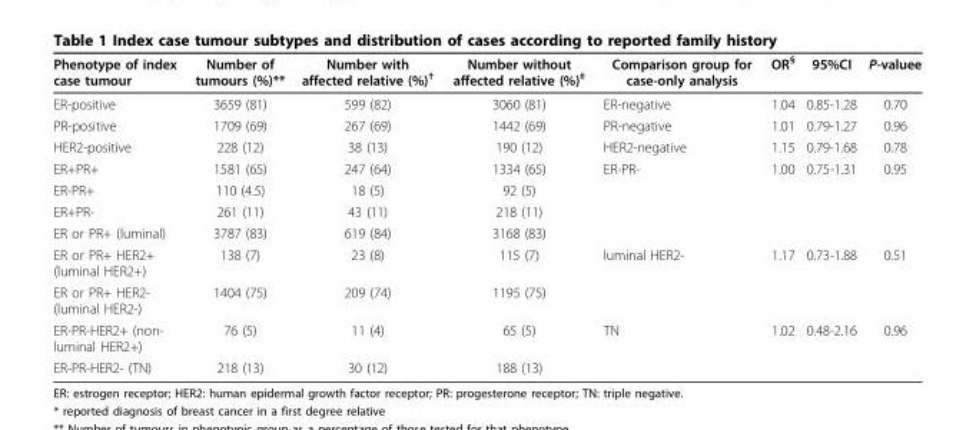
<table><thead><tr><td>Phenotype of index case tumour</td><td>Number of tumours (%)**</td><td>Number with affected relative (%)<sup>†</sup></td><td>Number without affected relative (%)<sup>‡</sup></td><td>Comparison group for case-only analysis</td><td>OR<sup>§</sup></td><td>95%CI</td><td>P-valuee</td></tr></thead><tbody><tr><td>ER-positive</td><td>3659 (81)</td><td>599 (82)</td><td>3060 (81)</td><td>ER-negative</td><td>1.04</td><td>0.85-1.28</td><td>0.70</td></tr><tr><td>PR-positive</td><td>1709 (69)</td><td>267 (69)</td><td>1442 (69)</td><td>PR-negative</td><td>1.01</td><td>0.79-1.27</td><td>0.96</td></tr><tr><td>HER2-positive</td><td>228 (12)</td><td>38 (13)</td><td>190 (12)</td><td>HER2-negative</td><td>1.15</td><td>0.79-1.68</td><td>0.78</td></tr><tr><td>ER+PR+</td><td>1581 (65)</td><td>247 (64)</td><td>1334 (65)</td><td>ER-PR-</td><td>1.00</td><td>0.75-1.31</td><td>0.95</td></tr><tr><td>ER-PR+</td><td>110 (4.5)</td><td>18 (5)</td><td>92 (5)</td><td></td><td></td><td></td><td></td></tr><tr><td>ER+PR-</td><td>261 (11)</td><td>43 (11)</td><td>218 (11)</td><td></td><td></td><td></td><td></td></tr><tr><td>ER or PR+ (luminal)</td><td>3787 (83)</td><td>619 (84)</td><td>3168 (83)</td><td></td><td></td><td></td><td></td></tr><tr><td>ER or PR+ HER2+ (luminal HER2+)</td><td>138 (7)</td><td>23 (8)</td><td>115 (7)</td><td>luminal HER2-</td><td>1.17</td><td>0.73-1.88</td><td>0.51</td></tr><tr><td>ER or PR+ HER2- (luminal HER2-)</td><td>1404 (75)</td><td>209 (74)</td><td>1195 (75)</td><td></td><td></td><td></td><td></td></tr><tr><td>ER-PR-HER2+ (non- luminal HER2+)</td><td>76 (5)</td><td>11 (4)</td><td>65 (5)</td><td>TN</td><td>1.02</td><td>0.48-2.16</td><td>0.96</td></tr><tr><td>ER-PR-HER2- (TN)</td><td>218 (13)</td><td>30 (12)</td><td>188 (13)</td><td></td><td></td><td></td><td></td></tr></tbody></table>